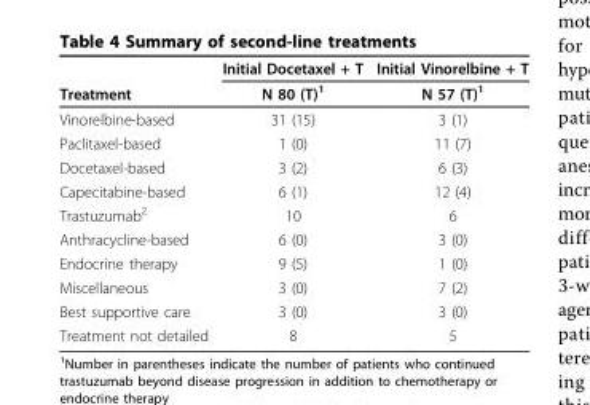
<table><thead><tr><td rowspan="2">Treatment</td><td rowspan="2">Initial Docetaxel + T N 80 (T)<sup>1</sup></td><td rowspan="2">Initial Vinorelbine + T N 57 (T)<sup>1</sup></td></tr><tr></tr></thead><tbody><tr><td>Vinorelbine-based</td><td>31 (15)</td><td>3 (1)</td></tr><tr><td>Paclitaxel-based</td><td>1 (0)</td><td>11 (7)</td></tr><tr><td>Docetaxel-based</td><td>3 (2)</td><td>6 (3)</td></tr><tr><td>Capecitabine-based</td><td>6 (1)</td><td>12 (4)</td></tr><tr><td>Trastuzumab<sup>2</sup></td><td>10</td><td>6</td></tr><tr><td>Anthracycline-based</td><td>6 (0)</td><td>3 (0)</td></tr><tr><td>Endocrine therapy</td><td>9 (5)</td><td>1 (0)</td></tr><tr><td>Miscellaneous</td><td>3 (0)</td><td>7 (2)</td></tr><tr><td>Best supportive care</td><td>3 (0)</td><td>3 (0)</td></tr><tr><td>Treatment not detailed</td><td>8</td><td>5</td></tr></tbody></table>